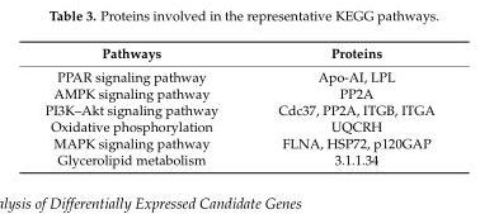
<table><thead><tr><td>Pathways</td><td>Proteins</td></tr></thead><tbody><tr><td>PPAR signaling pathway</td><td>Apo-AI, LPL</td></tr><tr><td>AMPK signaling pathway</td><td>PP2A</td></tr><tr><td>PI3K–Akt signaling pathway</td><td>Cdc37, PP2A, ITGB, ITGA</td></tr><tr><td>Oxidative phosphorylation</td><td>UQCRH</td></tr><tr><td>MAPK signaling pathway</td><td>FLNA, HSP72, p120GAP</td></tr><tr><td>Glycerolipid metabolism</td><td>3.1.1.34</td></tr></tbody></table>